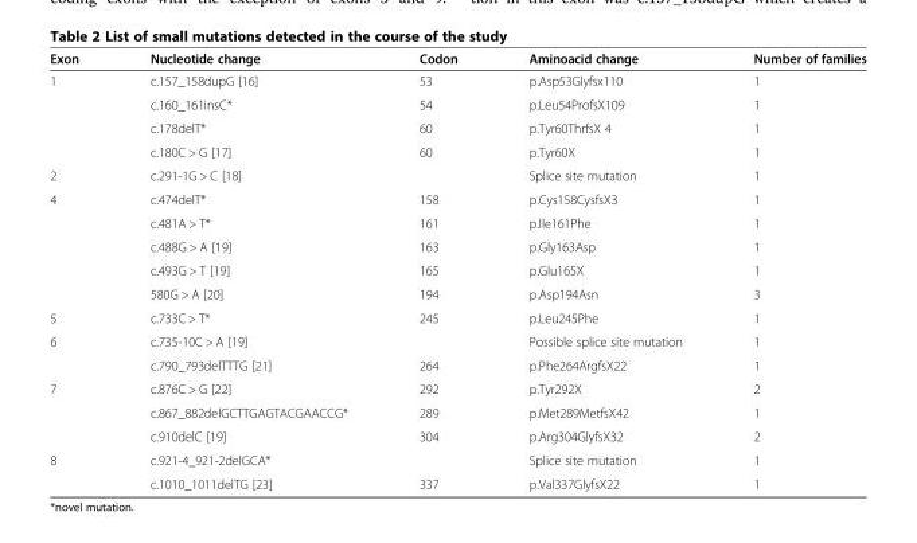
<table><thead><tr><td>Exon</td><td>Nucleotide change</td><td>Codon</td><td>Aminoacid change</td><td>Number of families</td></tr></thead><tbody><tr><td rowspan="4">1</td><td>c.157_158dupG [16]</td><td>53</td><td>p.Asp53Glyfsx110</td><td>1</td></tr><tr><td>c.160_161insC*</td><td>54</td><td>p.Leu54ProfsX109</td><td>1</td></tr><tr><td>c.178delT*</td><td>60</td><td>p.Tyr60ThrfsX 4</td><td>1</td></tr><tr><td>c.180C &gt; G [17]</td><td>60</td><td>p.Tyr60X</td><td>1</td></tr><tr><td>2</td><td>c.291-1G &gt; C [18]</td><td></td><td>Splice site mutation</td><td>1</td></tr><tr><td rowspan="5">4</td><td>c.474delT*</td><td>158</td><td>p.Cys158CysfsX3</td><td>1</td></tr><tr><td>c.481A &gt; T*</td><td>161</td><td>p.Ile161Phe</td><td>1</td></tr><tr><td>c.488G &gt; A [19]</td><td>163</td><td>p.Gly163Asp</td><td>1</td></tr><tr><td>c.493G &gt; T [19]</td><td>165</td><td>p.Glu165X</td><td>1</td></tr><tr><td>580G &gt; A [20]</td><td>194</td><td>p.Asp194Asn</td><td>3</td></tr><tr><td>5</td><td>c.733C &gt; T*</td><td>245</td><td>p.Leu245Phe</td><td>1</td></tr><tr><td rowspan="2">6</td><td>c.735-10C &gt; A [19]</td><td></td><td>Possible splice site mutation</td><td>1</td></tr><tr><td>c.790_793delTTTG [21]</td><td>264</td><td>p.Phe264ArgfsX22</td><td>1</td></tr><tr><td rowspan="3">7</td><td>c.876C &gt; G [22]</td><td>292</td><td>p.Tyr292X</td><td>2</td></tr><tr><td>c.867_882delGCTTGAGTACGAACCG*</td><td>289</td><td>p.Met289MetfsX42</td><td>1</td></tr><tr><td>c.910delC [19]</td><td>304</td><td>p.Arg304GlyfsX32</td><td>2</td></tr><tr><td rowspan="2">8</td><td>c.921-4_921-2delGCA*</td><td></td><td>Splice site mutation</td><td>1</td></tr><tr><td>c.1010_1011delTG [23]</td><td>337</td><td>p.Val337GlyfsX22</td><td>1</td></tr></tbody></table>